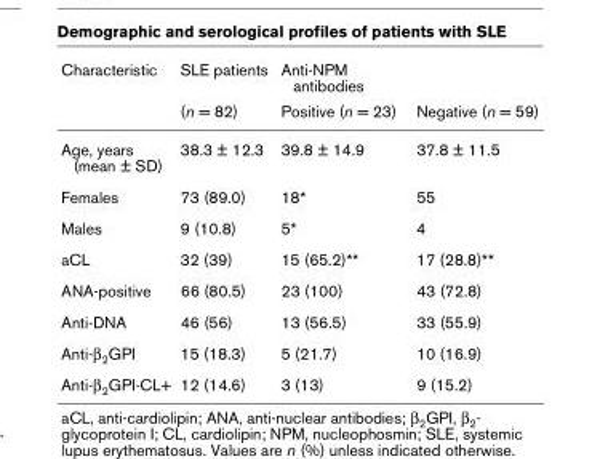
<table><thead><tr><td rowspan="2">Characteristic</td><td rowspan="2">SLE patients (n = 82)</td><td colspan="2">Anti-NPM antibodies</td></tr><tr><td>Positive (n = 23)</td><td>Negative (n = 59)</td></tr></thead><tbody><tr><td>Age, years (mean ± SD)</td><td>38.3 ± 12.3</td><td>39.8 ± 14.9</td><td>37.8 ± 11.5</td></tr><tr><td>Females</td><td>73 (89.0)</td><td>18*</td><td>55</td></tr><tr><td>Males</td><td>9 (10.8)</td><td>5*</td><td>4</td></tr><tr><td>aCL</td><td>32 (39)</td><td>15 (65.2)**</td><td>17 (28.8)**</td></tr><tr><td>ANA-positive</td><td>66 (80.5)</td><td>23 (100)</td><td>43 (72.8)</td></tr><tr><td>Anti-DNA</td><td>46 (56)</td><td>13 (56.5)</td><td>33 (55.9)</td></tr><tr><td>Anti-β2GPI</td><td>15 (18.3)</td><td>5 (21.7)</td><td>10 (16.9)</td></tr><tr><td>Anti-β2GPI-CL+</td><td>12 (14.6)</td><td>3 (13)</td><td>9 (15.2)</td></tr></tbody></table>